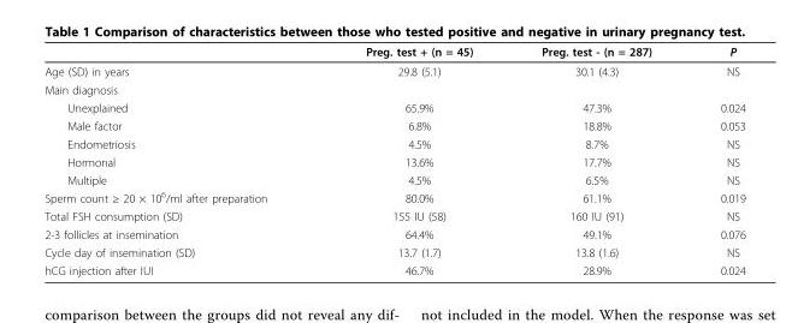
<table><thead><tr><td></td><td>Preg. test + (n = 45)</td><td>Preg. test - (n = 287)</td><td>P</td></tr></thead><tbody><tr><td>Age (SD) in years</td><td>29.8 (5.1)</td><td>30.1 (4.3)</td><td>NS</td></tr><tr><td colspan="4">Main diagnosis</td></tr><tr><td>Unexplained</td><td>65.9%</td><td>47.3%</td><td>0.024</td></tr><tr><td>Male factor</td><td>6.8%</td><td>18.8%</td><td>0.053</td></tr><tr><td>Endometriosis</td><td>4.5%</td><td>8.7%</td><td>NS</td></tr><tr><td>Hormonal</td><td>13.6%</td><td>17.7%</td><td>NS</td></tr><tr><td>Multiple</td><td>4.5%</td><td>6.5%</td><td>NS</td></tr><tr><td>Sperm count ≥ 20 × 10<sup>6</sup>/ml after preparation</td><td>80.0%</td><td>61.1%</td><td>0.019</td></tr><tr><td>Total FSH consumption (SD)</td><td>155 IU (58)</td><td>160 IU (91)</td><td>NS</td></tr><tr><td>2-3 follicles at insemination</td><td>64.4%</td><td>49.1%</td><td>0.076</td></tr><tr><td>Cycle day of insemination (SD)</td><td>13.7 (1.7)</td><td>13.8 (1.6)</td><td>NS</td></tr><tr><td>hCG injection after IUI</td><td>46.7%</td><td>28.9%</td><td>0.024</td></tr></tbody></table>